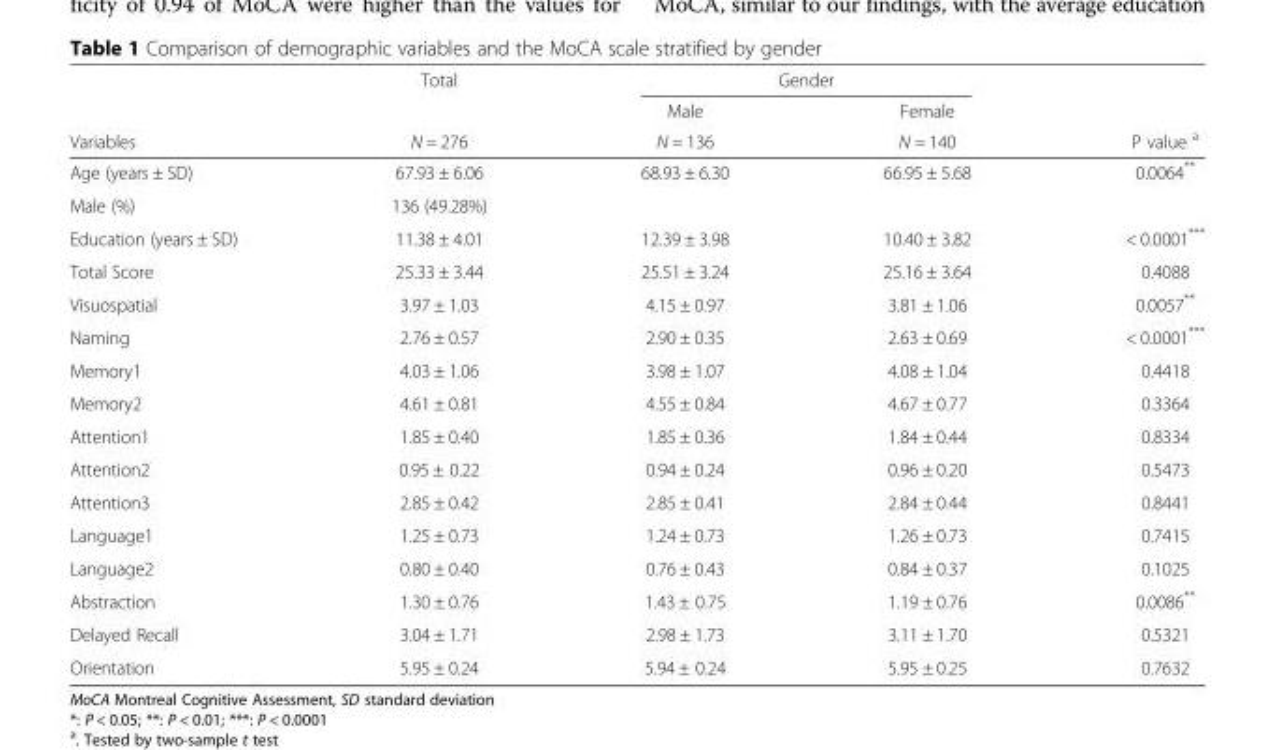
<table><thead><tr><td rowspan="3">Variables</td><td rowspan="3">Total N = 276</td><td colspan="2">Gender</td><td rowspan="3">P value <sup>a</sup></td></tr><tr><td rowspan="2">Male N = 136</td><td rowspan="2">Female N = 140</td></tr><tr></tr></thead><tbody><tr><td>Age (years ± SD)</td><td>67.93 ± 6.06</td><td>68.93 ± 6.30</td><td>66.95 ± 5.68</td><td>0.0064**</td></tr><tr><td>Male (%)</td><td>136 (49.28%)</td><td></td><td></td><td></td></tr><tr><td>Education (years ± SD)</td><td>11.38 ± 4.01</td><td>12.39 ± 3.98</td><td>10.40 ± 3.82</td><td>&lt; 0.0001***</td></tr><tr><td>Total Score</td><td>25.33 ± 3.44</td><td>25.51 ± 3.24</td><td>25.16 ± 3.64</td><td>0.4088</td></tr><tr><td>Visuospatial</td><td>3.97 ± 1.03</td><td>4.15 ± 0.97</td><td>3.81 ± 1.06</td><td>0.0057**</td></tr><tr><td>Naming</td><td>2.76 ± 0.57</td><td>2.90 ± 0.35</td><td>2.63 ± 0.69</td><td>&lt; 0.0001***</td></tr><tr><td>Memory1</td><td>4.03 ± 1.06</td><td>3.98 ± 1.07</td><td>4.08 ± 1.04</td><td>0.4418</td></tr><tr><td>Memory2</td><td>4.61 ± 0.81</td><td>4.55 ± 0.84</td><td>4.67 ± 0.77</td><td>0.3364</td></tr><tr><td>Attention1</td><td>1.85 ± 0.40</td><td>1.85 ± 0.36</td><td>1.84 ± 0.44</td><td>0.8334</td></tr><tr><td>Attention2</td><td>0.95 ± 0.22</td><td>0.94 ± 0.24</td><td>0.96 ± 0.20</td><td>0.5473</td></tr><tr><td>Attention3</td><td>2.85 ± 0.42</td><td>2.85 ± 0.41</td><td>2.84 ± 0.44</td><td>0.8441</td></tr><tr><td>Language1</td><td>1.25 ± 0.73</td><td>1.24 ± 0.73</td><td>1.26 ± 0.73</td><td>0.7415</td></tr><tr><td>Language2</td><td>0.80 ± 0.40</td><td>0.76 ± 0.43</td><td>0.84 ± 0.37</td><td>0.1025</td></tr><tr><td>Abstraction</td><td>1.30 ± 0.76</td><td>1.43 ± 0.75</td><td>1.19 ± 0.76</td><td>0.0086**</td></tr><tr><td>Delayed Recall</td><td>3.04 ± 1.71</td><td>2.98 ± 1.73</td><td>3.11 ± 1.70</td><td>0.5321</td></tr><tr><td>Orientation</td><td>5.95 ± 0.24</td><td>5.94 ± 0.24</td><td>5.95 ± 0.25</td><td>0.7632</td></tr></tbody></table>